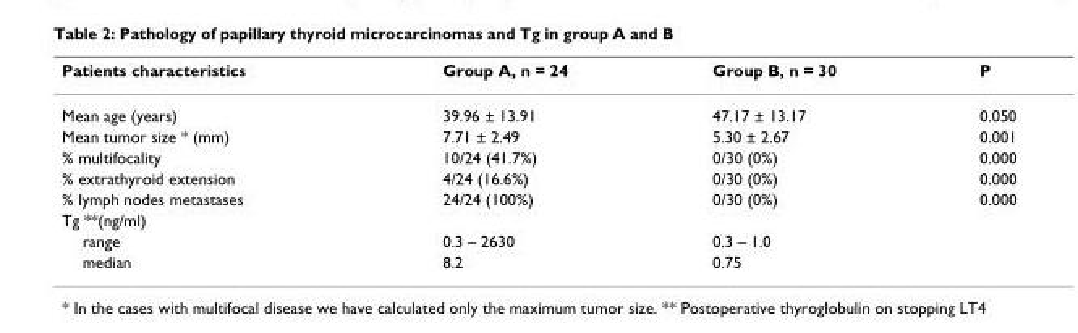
<table><thead><tr><td>Patients characteristics</td><td>Group A, n = 24</td><td>Group B, n = 30</td><td>P</td></tr></thead><tbody><tr><td>Mean age (years)</td><td>39.96 ± 13.91</td><td>47.17 ± 13.17</td><td>0.050</td></tr><tr><td>Mean tumor size * (mm)</td><td>7.71 ± 2.49</td><td>5.30 ± 2.67</td><td>0.001</td></tr><tr><td>% multifocality</td><td>10/24 (41.7%)</td><td>0/30 (0%)</td><td>0.000</td></tr><tr><td>% extrathyroid extension</td><td>4/24 (16.6%)</td><td>0/30 (0%)</td><td>0.000</td></tr><tr><td>% lymph nodes metastases</td><td>24/24 (100%)</td><td>0/30 (0%)</td><td>0.000</td></tr><tr><td colspan="4">Tg **(ng/ml)</td></tr><tr><td>range</td><td>0.3 – 2630</td><td>0.3 – 1.0</td><td></td></tr><tr><td>median</td><td>8.2</td><td>0.75</td><td></td></tr></tbody></table>